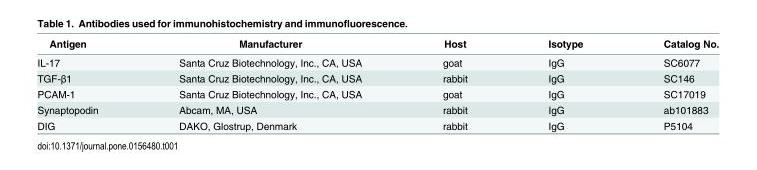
<table><thead><tr><td>Antigen</td><td>Manufacturer</td><td>Host</td><td>Isotype</td><td>Catalog No.</td></tr></thead><tbody><tr><td>IL-17</td><td>Santa Cruz Biotechnology, Inc., CA, USA</td><td>goat</td><td>IgG</td><td>SC6077</td></tr><tr><td>TGF-β1</td><td>Santa Cruz Biotechnology, Inc., CA, USA</td><td>rabbit</td><td>IgG</td><td>SC146</td></tr><tr><td>PCAM-1</td><td>Santa Cruz Biotechnology, Inc., CA, USA</td><td>goat</td><td>IgG</td><td>SC17019</td></tr><tr><td>Synaptopodin</td><td>Abcam, MA, USA</td><td>rabbit</td><td>IgG</td><td>ab101883</td></tr><tr><td>DIG</td><td>DAKO, Glostrup, Denmark</td><td>rabbit</td><td>IgG</td><td>P5104</td></tr></tbody></table>